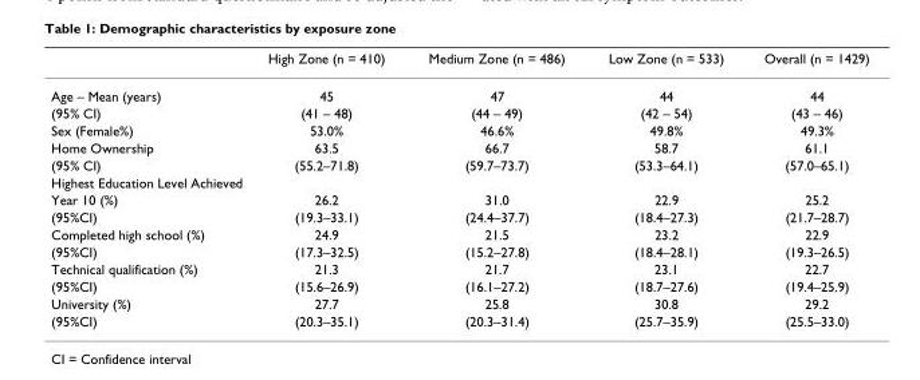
<table><thead><tr><td></td><td>High Zone (n = 410)</td><td>Medium Zone (n = 486)</td><td>Low Zone (n = 533)</td><td>Overall (n = 1429)</td></tr></thead><tbody><tr><td>Age – Mean (years)</td><td>45</td><td>47</td><td>44</td><td>44</td></tr><tr><td>(95% CI)</td><td>(41 – 48)</td><td>(44 – 49)</td><td>(42 – 54)</td><td>(43 – 46)</td></tr><tr><td>Sex (Female%)</td><td>53.0%</td><td>46.6%</td><td>49.8%</td><td>49.3%</td></tr><tr><td>Home Ownership</td><td>63.5</td><td>66.7</td><td>58.7</td><td>61.1</td></tr><tr><td>(95% CI)</td><td>(55.2–71.8)</td><td>(59.7–73.7)</td><td>(53.3–64.1)</td><td>(57.0–65.1)</td></tr><tr><td colspan="5">Highest Education Level Achieved</td></tr><tr><td>Year 10 (%)</td><td>26.2</td><td>31.0</td><td>22.9</td><td>25.2</td></tr><tr><td>(95%CI)</td><td>(19.3–33.1)</td><td>(24.4–37.7)</td><td>(18.4–27.3)</td><td>(21.7–28.7)</td></tr><tr><td>Completed high school (%)</td><td>24.9</td><td>21.5</td><td>23.2</td><td>22.9</td></tr><tr><td>(95%CI)</td><td>(17.3–32.5)</td><td>(15.2–27.8)</td><td>(18.4–28.1)</td><td>(19.3–26.5)</td></tr><tr><td>Technical qualification (%)</td><td>21.3</td><td>21.7</td><td>23.1</td><td>22.7</td></tr><tr><td>(95%CI)</td><td>(15.6–26.9)</td><td>(16.1–27.2)</td><td>(18.7–27.6)</td><td>(19.4–25.9)</td></tr><tr><td>University (%)</td><td>27.7</td><td>25.8</td><td>30.8</td><td>29.2</td></tr><tr><td>(95%CI)</td><td>(20.3–35.1)</td><td>(20.3–31.4)</td><td>(25.7–35.9)</td><td>(25.5–33.0)</td></tr></tbody></table>